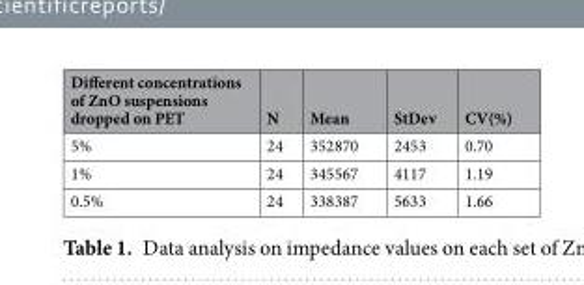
<table><thead><tr><td>Different concentrations of ZnO suspensions dropped on PET</td><td>N</td><td>Mean</td><td>StDev</td><td>CV(%)</td></tr></thead><tbody><tr><td>5%</td><td>24</td><td>352870</td><td>2453</td><td>0.70</td></tr><tr><td>1%</td><td>24</td><td>345567</td><td>4117</td><td>1.19</td></tr><tr><td>0.5%</td><td>24</td><td>338387</td><td>5633</td><td>1.66</td></tr></tbody></table>